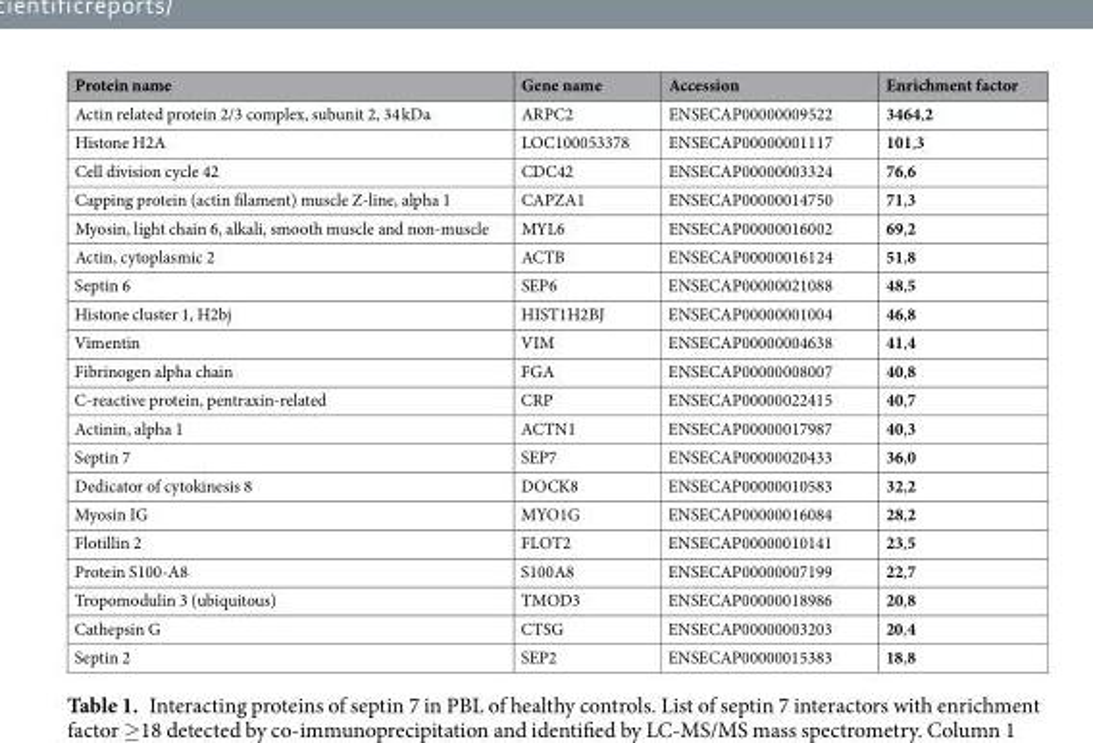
<table><thead><tr><td>Protein name</td><td>Gene name</td><td>Accession</td><td>Enrichment factor</td></tr></thead><tbody><tr><td>Actin related protein 2/3 complex, subunit 2, 34 kDa</td><td>ARPC2</td><td>ENSECAP00000009522</td><td>3464,2</td></tr><tr><td>Histone H2A</td><td>LOC100053378</td><td>ENSECAP00000001117</td><td>101,3</td></tr><tr><td>Cell division cycle 42</td><td>CDC42</td><td>ENSECAP00000003324</td><td>76,6</td></tr><tr><td>Capping protein (actin filament) muscle Z-line, alpha 1</td><td>CAPZA1</td><td>ENSECAP00000014750</td><td>71,3</td></tr><tr><td>Myosin, light chain 6, alkali, smooth muscle and non-muscle</td><td>MYL6</td><td>ENSECAP00000016002</td><td>69,2</td></tr><tr><td>Actin, cytoplasmic 2</td><td>ACTB</td><td>ENSECAP00000016124</td><td>51,8</td></tr><tr><td>Septin 6</td><td>SEP6</td><td>ENSECAP00000021088</td><td>48,5</td></tr><tr><td>Histone cluster 1, H2bj</td><td>HIST1H2BJ</td><td>ENSECAP00000001004</td><td>46,8</td></tr><tr><td>Vimentin</td><td>VIM</td><td>ENSECAP00000004638</td><td>41,4</td></tr><tr><td>Fibrinogen alpha chain</td><td>FGA</td><td>ENSECAP00000008007</td><td>40,8</td></tr><tr><td>C-reactive protein, pentraxin-related</td><td>CRP</td><td>ENSECAP00000022415</td><td>40,7</td></tr><tr><td>Actinin, alpha 1</td><td>ACTN1</td><td>ENSECAP00000017987</td><td>40,3</td></tr><tr><td>Septin 7</td><td>SEP7</td><td>ENSECAP00000020433</td><td>36,0</td></tr><tr><td>Dedicator of cytokinesis 8</td><td>DOCK8</td><td>ENSECAP00000010583</td><td>32,2</td></tr><tr><td>Myosin IG</td><td>MYO1G</td><td>ENSECAP00000016084</td><td>28,2</td></tr><tr><td>Flotillin 2</td><td>FLOT2</td><td>ENSECAP00000010141</td><td>23,5</td></tr><tr><td>Protein S100-A8</td><td>S100A8</td><td>ENSECAP00000007199</td><td>22,7</td></tr><tr><td>Tropomodulin 3 (ubiquitous)</td><td>TMOD3</td><td>ENSECAP00000018986</td><td>20,8</td></tr><tr><td>Cathepsin G</td><td>CTSG</td><td>ENSECAP00000003203</td><td>20,4</td></tr><tr><td>Septin 2</td><td>SEP2</td><td>ENSECAP00000015383</td><td>18,8</td></tr></tbody></table>